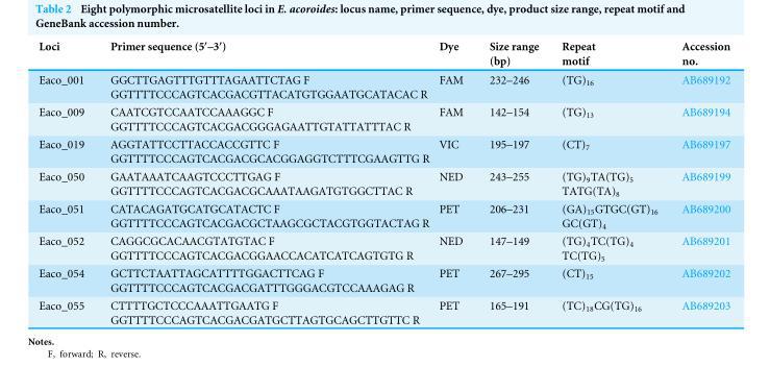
<table><thead><tr><td>Loci</td><td>Primer sequence (5′–3′)</td><td>Dye</td><td>Size range (bp)</td><td>Repeat motif</td><td>Accession no.</td></tr></thead><tbody><tr><td>Eaco_001</td><td>GGCTTGAGTTTGTTTAGAATTCTAG F GGTTTTCCCAGTCACGACGTTACATGTGGAATGCATACAC R</td><td>FAM</td><td>232–246</td><td>(TG)<sub>16</sub></td><td>AB689192</td></tr><tr><td>Eaco_009</td><td>CAATCGTCCAATCCAAAGGC F GGTTTTCCCAGTCACGACGGGAGAATTGTATTATTTAC R</td><td>FAM</td><td>142–154</td><td>(TG)<sub>13</sub></td><td>AB689194</td></tr><tr><td>Eaco_019</td><td>AGGTATTCCTTACCACCGTTC F GGTTTTCCCAGTCACGACGCACGGAGGTCTTTCGAAGTTG R</td><td>VIC</td><td>195–197</td><td>(CT)<sub>7</sub></td><td>AB689197</td></tr><tr><td>Eaco_050</td><td>GAATAAATCAAGTCCCTTGAG F GGTTTTCCCAGTCACGACGCAAATAAGATGTGGCTTAC R</td><td>NED</td><td>243–255</td><td>(TG)<sub>9</sub>TA(TG)<sub>5</sub> TATG(TA)<sub>8</sub></td><td>AB689199</td></tr><tr><td>Eaco_051</td><td>CATACAGATGCATGCATACTC F GGTTTTCCCAGTCACGACGCTAAGCGCTACGTGGTACTAG R</td><td>PET</td><td>206–231</td><td>(GA)<sub>15</sub>GTGC(GT)<sub>16</sub> GC(GT)<sub>4</sub></td><td>AB689200</td></tr><tr><td>Eaco_052</td><td>CAGGCGCACAACGTATGTAC F GGTTTTCCCAGTCACGACGGAACCACATCATCAGTGTG R</td><td>NED</td><td>147–149</td><td>(TG)<sub>4</sub>TC(TG)<sub>4</sub> TC(TG)<sub>5</sub></td><td>AB689201</td></tr><tr><td>Eaco_054</td><td>GCTTCTAATTAGCATTTTGGACTTCAG F GGTTTTCCCAGTCACGACGATTTGGGACGTCCAAAGAG R</td><td>PET</td><td>267–295</td><td>(CT)<sub>15</sub></td><td>AB689202</td></tr><tr><td>Eaco_055</td><td>CTTTTGCTCCCAAATTGAATG F GGTTTTCCCAGTCACGACGATGCTTAGTGCAGCTTGTTC R</td><td>PET</td><td>165–191</td><td>(TC)<sub>18</sub>CG(TG)<sub>16</sub></td><td>AB689203</td></tr></tbody></table>